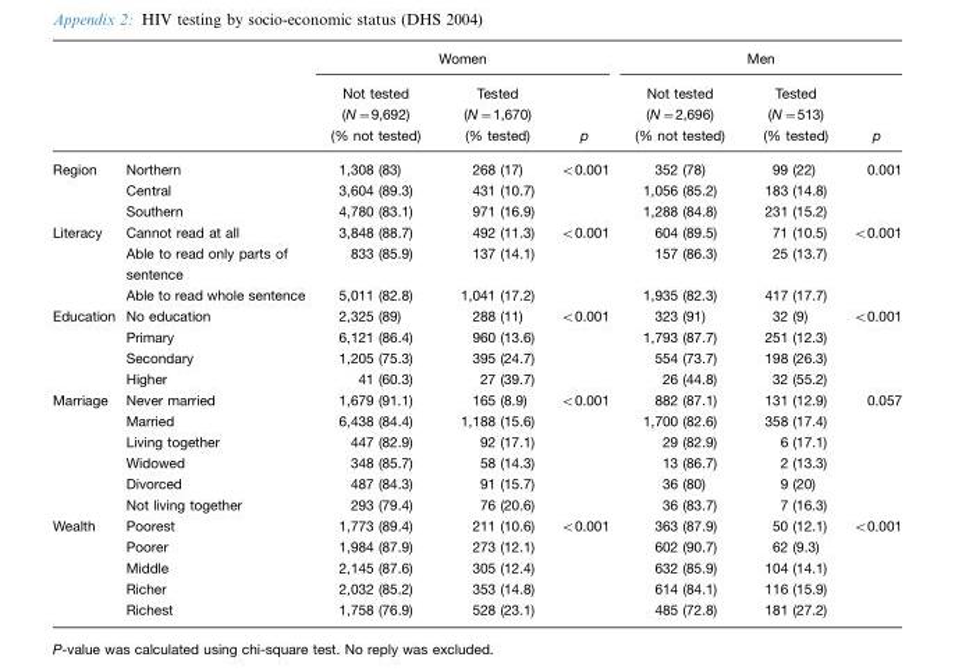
<table><thead><tr><td rowspan="2"></td><td rowspan="2"></td><td colspan="3">Women</td><td colspan="3">Men</td></tr><tr><td>Not tested (N=9,692) (% not tested)</td><td>Tested (N=1,670) (% tested)</td><td>p</td><td>Not tested (N=2,696) (% not tested)</td><td>Tested (N=513) (% tested)</td><td>p</td></tr></thead><tbody><tr><td rowspan="3">Region</td><td>Northern</td><td>1,308 (83)</td><td>268 (17)</td><td>&lt;0.001</td><td>352 (78)</td><td>99 (22)</td><td>0.001</td></tr><tr><td>Central</td><td>3,604 (89.3)</td><td>431 (10.7)</td><td></td><td>1,056 (85.2)</td><td>183 (14.8)</td><td></td></tr><tr><td>Southern</td><td>4,780 (83.1)</td><td>971 (16.9)</td><td></td><td>1,288 (84.8)</td><td>231 (15.2)</td><td></td></tr><tr><td rowspan="3">Literacy</td><td>Cannot read at all</td><td>3,848 (88.7)</td><td>492 (11.3)</td><td>&lt;0.001</td><td>604 (89.5)</td><td>71 (10.5)</td><td>&lt;0.001</td></tr><tr><td>Able to read only parts of sentence</td><td>833 (85.9)</td><td>137 (14.1)</td><td></td><td>157 (86.3)</td><td>25 (13.7)</td><td></td></tr><tr><td>Able to read whole sentence</td><td>5,011 (82.8)</td><td>1,041 (17.2)</td><td></td><td>1,935 (82.3)</td><td>417 (17.7)</td><td></td></tr><tr><td rowspan="4">Education</td><td>No education</td><td>2,325 (89)</td><td>288 (11)</td><td>&lt;0.001</td><td>323 (91)</td><td>32 (9)</td><td>&lt;0.001</td></tr><tr><td>Primary</td><td>6,121 (86.4)</td><td>960 (13.6)</td><td></td><td>1,793 (87.7)</td><td>251 (12.3)</td><td></td></tr><tr><td>Secondary</td><td>1,205 (75.3)</td><td>395 (24.7)</td><td></td><td>554 (73.7)</td><td>198 (26.3)</td><td></td></tr><tr><td>Higher</td><td>41 (60.3)</td><td>27 (39.7)</td><td></td><td>26 (44.8)</td><td>32 (55.2)</td><td></td></tr><tr><td rowspan="6">Marriage</td><td>Never married</td><td>1,679 (91.1)</td><td>165 (8.9)</td><td>&lt;0.001</td><td>882 (87.1)</td><td>131 (12.9)</td><td>0.057</td></tr><tr><td>Married</td><td>6,438 (84.4)</td><td>1,188 (15.6)</td><td></td><td>1,700 (82.6)</td><td>358 (17.4)</td><td></td></tr><tr><td>Living together</td><td>447 (82.9)</td><td>92 (17.1)</td><td></td><td>29 (82.9)</td><td>6 (17.1)</td><td></td></tr><tr><td>Widowed</td><td>348 (85.7)</td><td>58 (14.3)</td><td></td><td>13 (86.7)</td><td>2 (13.3)</td><td></td></tr><tr><td>Divorced</td><td>487 (84.3)</td><td>91 (15.7)</td><td></td><td>36 (80)</td><td>9 (20)</td><td></td></tr><tr><td>Not living together</td><td>293 (79.4)</td><td>76 (20.6)</td><td></td><td>36 (83.7)</td><td>7 (16.3)</td><td></td></tr><tr><td rowspan="5">Wealth</td><td>Poorest</td><td>1,773 (89.4)</td><td>211 (10.6)</td><td>&lt;0.001</td><td>363 (87.9)</td><td>50 (12.1)</td><td>&lt;0.001</td></tr><tr><td>Poorer</td><td>1,984 (87.9)</td><td>273 (12.1)</td><td></td><td>602 (90.7)</td><td>62 (9.3)</td><td></td></tr><tr><td>Middle</td><td>2,145 (87.6)</td><td>305 (12.4)</td><td></td><td>632 (85.9)</td><td>104 (14.1)</td><td></td></tr><tr><td>Richer</td><td>2,032 (85.2)</td><td>353 (14.8)</td><td></td><td>614 (84.1)</td><td>116 (15.9)</td><td></td></tr><tr><td>Richest</td><td>1,758 (76.9)</td><td>528 (23.1)</td><td></td><td>485 (72.8)</td><td>181 (27.2)</td><td></td></tr></tbody></table>